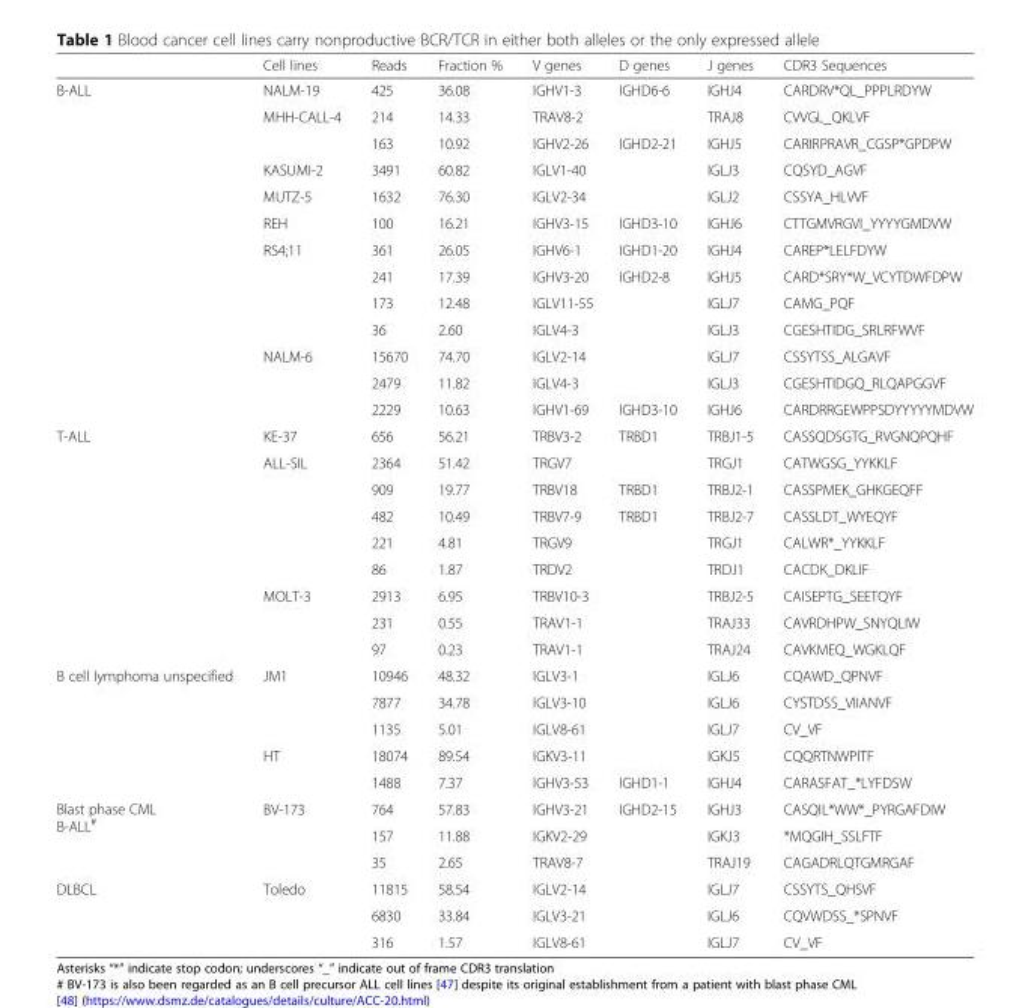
<table><thead><tr><td></td><td>Cell lines</td><td>Reads</td><td>Fraction %</td><td>V genes</td><td>D genes</td><td>J genes</td><td>CDR3 Sequences</td></tr></thead><tbody><tr><td rowspan="13">B-ALL</td><td>NALM-19</td><td>425</td><td>36.08</td><td>IGHV1-3</td><td>IGHD6-6</td><td>IGHJ4</td><td>CARDRV*QL_PPPLRDYW</td></tr><tr><td rowspan="2">MHH-CALL-4</td><td>214</td><td>14.33</td><td colspan="2">TRAV8-2</td><td>TRAJ8</td><td>CVVGL_QKLVF</td></tr><tr><td>163</td><td>10.92</td><td>IGHV2-26</td><td>IGHD2-21</td><td>IGHJ5</td><td>CARIRPRAVR_CGSP*GPDPW</td></tr><tr><td>KASUMI-2</td><td>3491</td><td>60.82</td><td colspan="2">IGLV1-40</td><td>IGLJ3</td><td>CQSYD_AGVF</td></tr><tr><td>MUTZ-5</td><td>1632</td><td>76.30</td><td colspan="2">IGLV2-34</td><td>IGLJ2</td><td>CSSYA_HLVVF</td></tr><tr><td>REH</td><td>100</td><td>16.21</td><td>IGHV3-15</td><td>IGHD3-10</td><td>IGHJ6</td><td>CTTGMVRGVI_YYYYGMDVW</td></tr><tr><td rowspan="4">RS4;11</td><td>361</td><td>26.05</td><td>IGHV6-1</td><td>IGHD1-20</td><td>IGHJ4</td><td>CAREP*LELFDYW</td></tr><tr><td>241</td><td>17.39</td><td>IGHV3-20</td><td>IGHD2-8</td><td>IGHJ5</td><td>CARD*SRY*W_VCYTDWFDPW</td></tr><tr><td>173</td><td>12.48</td><td colspan="2">IGLV11-55</td><td>IGLJ7</td><td>CAMG_PQF</td></tr><tr><td>36</td><td>2.60</td><td colspan="2">IGLV4-3</td><td>IGLJ3</td><td>CGESHTIDG_SRLRFWVF</td></tr><tr><td rowspan="3">NALM-6</td><td>15670</td><td>74.70</td><td colspan="2">IGLV2-14</td><td>IGLJ7</td><td>CSSYTSS_ALGAVF</td></tr><tr><td>2479</td><td>11.82</td><td colspan="2">IGLV4-3</td><td>IGLJ3</td><td>CGESHTIDGQ_RLQAPGGVF</td></tr><tr><td>2229</td><td>10.63</td><td>IGHV1-69</td><td>IGHD3-10</td><td>IGHJ6</td><td>CARDRRGEWPPSDYYYYYMDVW</td></tr><tr><td rowspan="9">T-ALL</td><td>KE-37</td><td>656</td><td>56.21</td><td>TRBV3-2</td><td>TRBD1</td><td>TRBJ1-5</td><td>CASSQDSGTG_RVGNQPQHF</td></tr><tr><td rowspan="5">ALL-SIL</td><td>2364</td><td>51.42</td><td colspan="2">TRGV7</td><td>TRGJ1</td><td>CATWGSG_YYKKLF</td></tr><tr><td>909</td><td>19.77</td><td>TRBV18</td><td>TRBD1</td><td>TRBJ2-1</td><td>CASSPMEK_GHKGEQFF</td></tr><tr><td>482</td><td>10.49</td><td>TRBV7-9</td><td>TRBD1</td><td>TRBJ2-7</td><td>CASSLDT_WYEQYF</td></tr><tr><td>221</td><td>4.81</td><td colspan="2">TRGV9</td><td>TRGJ1</td><td>CALWR*_YYKKLF</td></tr><tr><td>86</td><td>1.87</td><td colspan="2">TRDV2</td><td>TRDJ1</td><td>CACDK_DKLIF</td></tr><tr><td rowspan="3">MOLT-3</td><td>2913</td><td>6.95</td><td colspan="2">TRBV10-3</td><td>TRBJ2-5</td><td>CAISEPTG_SEETQYF</td></tr><tr><td>231</td><td>0.55</td><td colspan="2">TRAV1-1</td><td>TRAJ33</td><td>CAVRDHPW_SNYQLIW</td></tr><tr><td>97</td><td>0.23</td><td colspan="2">TRAV1-1</td><td>TRAJ24</td><td>CAVKMEQ_WGKLQF</td></tr><tr><td rowspan="5">B cell lymphoma unspecified</td><td rowspan="3">JM1</td><td>10946</td><td>48.32</td><td colspan="2">IGLV3-1</td><td>IGLJ6</td><td>CQAWD_QPNVF</td></tr><tr><td>7877</td><td>34.78</td><td colspan="2">IGLV3-10</td><td>IGLJ6</td><td>CYSTDSS_VIIANVF</td></tr><tr><td>1135</td><td>5.01</td><td colspan="2">IGLV8-61</td><td>IGLJ7</td><td>CV_VF</td></tr><tr><td rowspan="2">HT</td><td>18074</td><td>89.54</td><td colspan="2">IGKV3-11</td><td>IGKJ5</td><td>CQQRTNWPITF</td></tr><tr><td>1488</td><td>7.37</td><td>IGHV3-53</td><td>IGHD1-1</td><td>IGHJ4</td><td>CARASFAT_*LYFDSW</td></tr><tr><td rowspan="3">Blast phase CML B-ALL<sup>#</sup></td><td rowspan="3">BV-173</td><td>764</td><td>57.83</td><td>IGHV3-21</td><td>IGHD2-15</td><td>IGHJ3</td><td>CASQIL*WW*_PYRGAFDIW</td></tr><tr><td>157</td><td>11.88</td><td colspan="2">IGKV2-29</td><td>IGKJ3</td><td>*MQGIH_SSLFTF</td></tr><tr><td>35</td><td>2.65</td><td colspan="2">TRAV8-7</td><td>TRAJ19</td><td>CAGADRLQTGMRGAF</td></tr><tr><td rowspan="3">DLBCL</td><td rowspan="3">Toledo</td><td>11815</td><td>58.54</td><td colspan="2">IGLV2-14</td><td>IGLJ7</td><td>CSSYTS_QHSVF</td></tr><tr><td>6830</td><td>33.84</td><td colspan="2">IGLV3-21</td><td>IGLJ6</td><td>CQVWDSS_*SPNVF</td></tr><tr><td>316</td><td>1.57</td><td colspan="2">IGLV8-61</td><td>IGLJ7</td><td>CV_VF</td></tr></tbody></table>